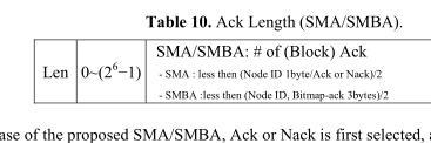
<table><tbody><tr><td>Len</td><td>0~(26−1)</td><td>SMA/SMBA: # of (Block) Ack - SMA : less then (Node ID 1byte/Ack or Nack)/2 - SMBA :less then (Node ID, Bitmap-ack 3bytes)/2</td></tr></tbody></table>